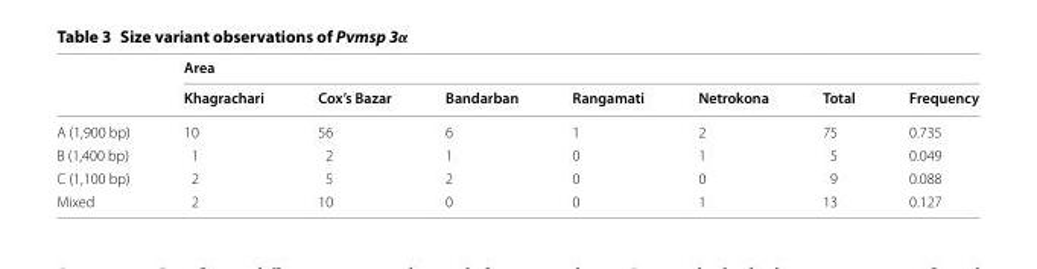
<table><thead><tr><td rowspan="2"></td><td colspan="7">Area</td></tr><tr><td>Khagrachari</td><td>Cox’s Bazar</td><td>Bandarban</td><td>Rangamati</td><td>Netrokona</td><td>Total</td><td>Frequency</td></tr></thead><tbody><tr><td>A (1,900 bp)</td><td>10</td><td>56</td><td>6</td><td>1</td><td>2</td><td>75</td><td>0.735</td></tr><tr><td>B (1,400 bp)</td><td>1</td><td>2</td><td>1</td><td>0</td><td>1</td><td>5</td><td>0.049</td></tr><tr><td>C (1,100 bp)</td><td>2</td><td>5</td><td>2</td><td>0</td><td>0</td><td>9</td><td>0.088</td></tr><tr><td>Mixed</td><td>2</td><td>10</td><td>0</td><td>0</td><td>1</td><td>13</td><td>0.127</td></tr></tbody></table>